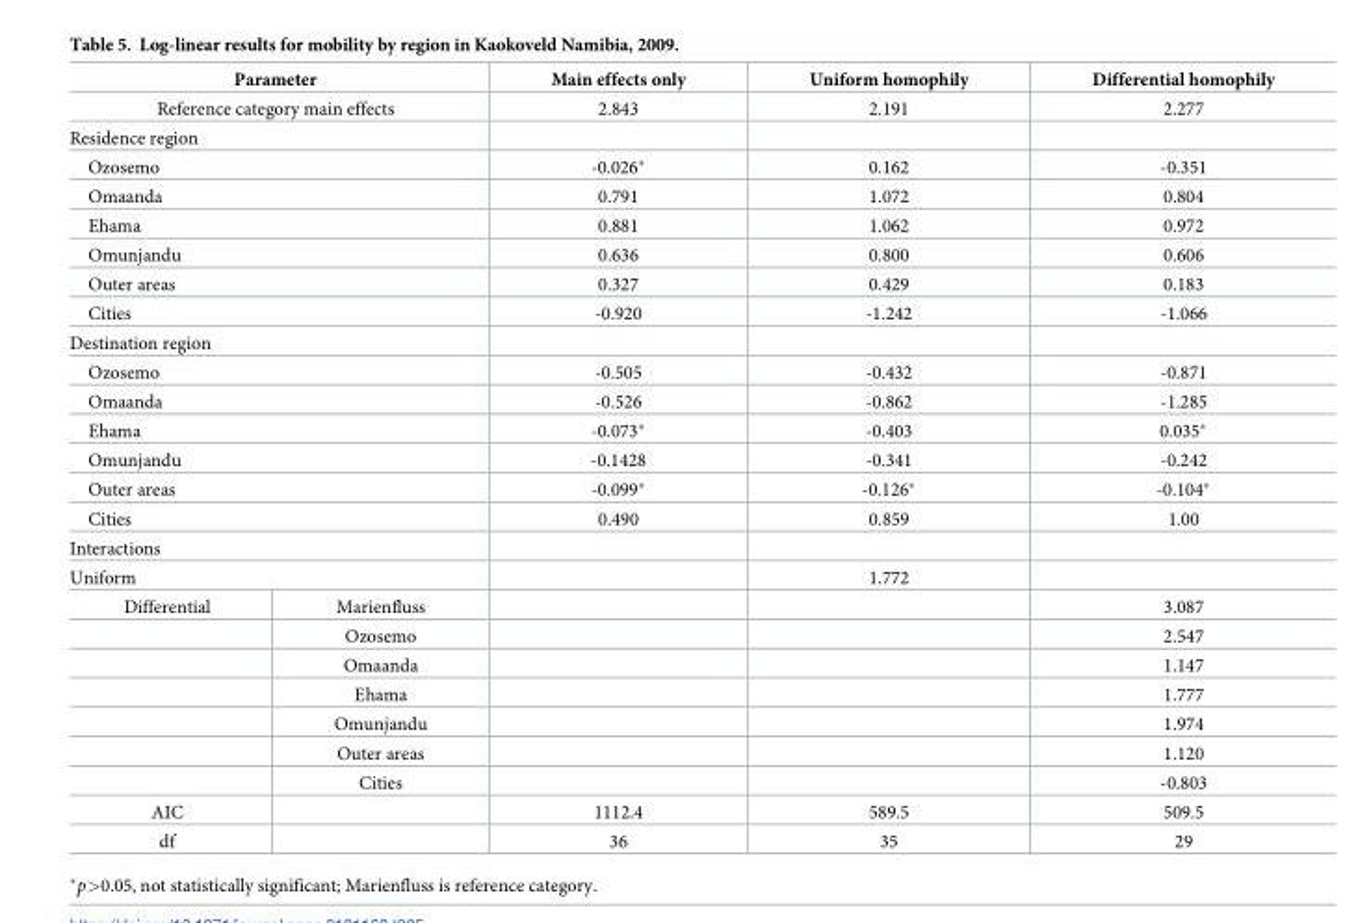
<table><thead><tr><td colspan="2">Parameter</td><td>Main effects only</td><td>Uniform homophily</td><td>Differential homophily</td></tr></thead><tbody><tr><td colspan="2">Reference category main effects</td><td>2.843</td><td>2.191</td><td>2.277</td></tr><tr><td colspan="5">Residence region</td></tr><tr><td colspan="2">Ozosemo</td><td>-0.026*</td><td>0.162</td><td>-0.351</td></tr><tr><td colspan="2">Omaanda</td><td>0.791</td><td>1.072</td><td>0.804</td></tr><tr><td colspan="2">Ehama</td><td>0.881</td><td>1.062</td><td>0.972</td></tr><tr><td colspan="2">Omunjandu</td><td>0.636</td><td>0.800</td><td>0.606</td></tr><tr><td colspan="2">Outer areas</td><td>0.327</td><td>0.429</td><td>0.183</td></tr><tr><td colspan="2">Cities</td><td>-0.920</td><td>-1.242</td><td>-1.066</td></tr><tr><td colspan="5">Destination region</td></tr><tr><td colspan="2">Ozosemo</td><td>-0.505</td><td>-0.432</td><td>-0.871</td></tr><tr><td colspan="2">Omaanda</td><td>-0.526</td><td>-0.862</td><td>-1.285</td></tr><tr><td colspan="2">Ehama</td><td>-0.073*</td><td>-0.403</td><td>0.035*</td></tr><tr><td colspan="2">Omunjandu</td><td>-0.1428</td><td>-0.341</td><td>-0.242</td></tr><tr><td colspan="2">Outer areas</td><td>-0.099*</td><td>-0.126*</td><td>-0.104*</td></tr><tr><td colspan="2">Cities</td><td>0.490</td><td>0.859</td><td>1.00</td></tr><tr><td colspan="5">Interactions</td></tr><tr><td colspan="2">Uniform</td><td></td><td>1.772</td><td></td></tr><tr><td rowspan="7">Differential</td><td>Marienfluss</td><td></td><td></td><td>3.087</td></tr><tr><td>Ozosemo</td><td></td><td></td><td>2.547</td></tr><tr><td>Omaanda</td><td></td><td></td><td>1.147</td></tr><tr><td>Ehama</td><td></td><td></td><td>1.777</td></tr><tr><td>Omunjandu</td><td></td><td></td><td>1.974</td></tr><tr><td>Outer areas</td><td></td><td></td><td>1.120</td></tr><tr><td>Cities</td><td></td><td></td><td>-0.803</td></tr><tr><td>AIC</td><td></td><td>1112.4</td><td>589.5</td><td>509.5</td></tr><tr><td>df</td><td></td><td>36</td><td>35</td><td>29</td></tr></tbody></table>